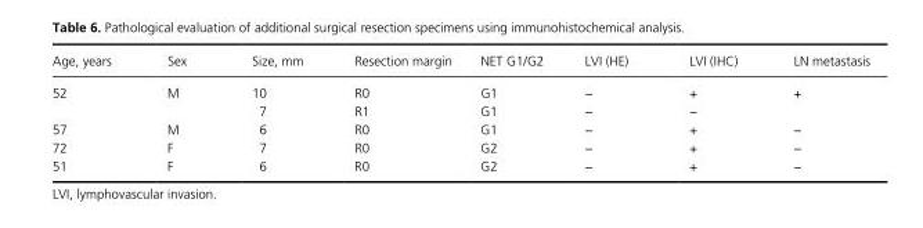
<table><thead><tr><td>Age, years</td><td>Sex</td><td>Size, mm</td><td>Resection margin</td><td>NET G1/G2</td><td>LVI (HE)</td><td>LVI (IHC)</td><td>LN metastasis</td></tr></thead><tbody><tr><td rowspan="2">52</td><td>M</td><td>10</td><td>R0</td><td>G1</td><td>−</td><td>+</td><td>+</td></tr><tr><td></td><td>7</td><td>R1</td><td>G1</td><td>−</td><td>−</td><td></td></tr><tr><td>57</td><td>M</td><td>6</td><td>R0</td><td>G1</td><td>−</td><td>+</td><td>−</td></tr><tr><td>72</td><td>F</td><td>7</td><td>R0</td><td>G2</td><td>−</td><td>+</td><td>−</td></tr><tr><td>51</td><td>F</td><td>6</td><td>R0</td><td>G2</td><td>−</td><td>+</td><td>−</td></tr></tbody></table>